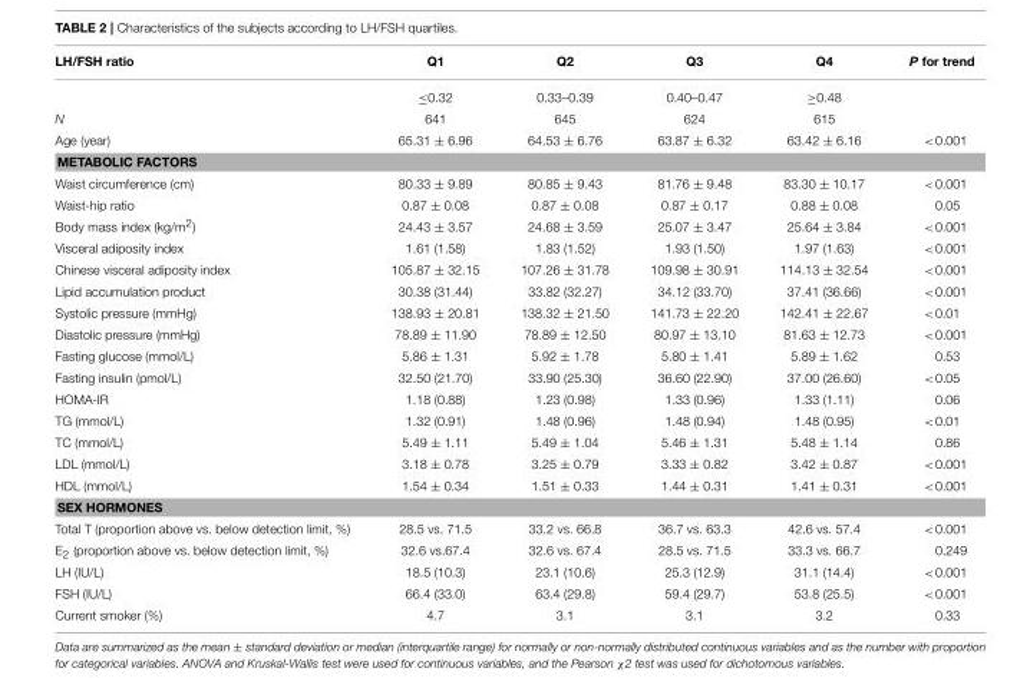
<table><thead><tr><td>LH/FSH ratio</td><td>Q1</td><td>Q2</td><td>Q3</td><td>Q4</td><td>P for trend</td></tr></thead><tbody><tr><td></td><td>≤0.32</td><td>0.33–0.39</td><td>0.40–0.47</td><td>≥0.48</td><td></td></tr><tr><td>N</td><td>641</td><td>645</td><td>624</td><td>615</td><td></td></tr><tr><td>Age (year)</td><td>65.31 ± 6.96</td><td>64.53 ± 6.76</td><td>63.87 ± 6.32</td><td>63.42 ± 6.16</td><td>&lt;0.001</td></tr><tr><td colspan="6">METABOLIC FACTORS</td></tr><tr><td>Waist circumference (cm)</td><td>80.33 ± 9.89</td><td>80.85 ± 9.43</td><td>81.76 ± 9.48</td><td>83.30 ± 10.17</td><td>&lt;0.001</td></tr><tr><td>Waist-hip ratio</td><td>0.87 ± 0.08</td><td>0.87 ± 0.08</td><td>0.87 ± 0.17</td><td>0.88 ± 0.08</td><td>0.05</td></tr><tr><td>Body mass index (kg/m<sup>2</sup>)</td><td>24.43 ± 3.57</td><td>24.68 ± 3.59</td><td>25.07 ± 3.47</td><td>25.64 ± 3.84</td><td>&lt;0.001</td></tr><tr><td>Visceral adiposity index</td><td>1.61 (1.58)</td><td>1.83 (1.52)</td><td>1.93 (1.50)</td><td>1.97 (1.63)</td><td>&lt;0.001</td></tr><tr><td>Chinese visceral adiposity index</td><td>105.87 ± 32.15</td><td>107.26 ± 31.78</td><td>109.98 ± 30.91</td><td>114.13 ± 32.54</td><td>&lt;0.001</td></tr><tr><td>Lipid accumulation product</td><td>30.38 (31.44)</td><td>33.82 (32.27)</td><td>34.12 (33.70)</td><td>37.41 (36.66)</td><td>&lt;0.001</td></tr><tr><td>Systolic pressure (mmHg)</td><td>138.93 ± 20.81</td><td>138.32 ± 21.50</td><td>141.73 ± 22.20</td><td>142.41 ± 22.67</td><td>&lt;0.01</td></tr><tr><td>Diastolic pressure (mmHg)</td><td>78.89 ± 11.90</td><td>78.89 ± 12.50</td><td>80.97 ± 13.10</td><td>81.63 ± 12.73</td><td>&lt;0.001</td></tr><tr><td>Fasting glucose (mmol/L)</td><td>5.86 ± 1.31</td><td>5.92 ± 1.78</td><td>5.80 ± 1.41</td><td>5.89 ± 1.62</td><td>0.53</td></tr><tr><td>Fasting insulin (pmol/L)</td><td>32.50 (21.70)</td><td>33.90 (25.30)</td><td>36.60 (22.90)</td><td>37.00 (26.60)</td><td>&lt;0.05</td></tr><tr><td>HOMA-IR</td><td>1.18 (0.88)</td><td>1.23 (0.98)</td><td>1.33 (0.96)</td><td>1.33 (1.11)</td><td>0.06</td></tr><tr><td>TG (mmol/L)</td><td>1.32 (0.91)</td><td>1.48 (0.96)</td><td>1.48 (0.94)</td><td>1.48 (0.95)</td><td>&lt;0.01</td></tr><tr><td>TC (mmol/L)</td><td>5.49 ± 1.11</td><td>5.49 ± 1.04</td><td>5.46 ± 1.31</td><td>5.48 ± 1.14</td><td>0.86</td></tr><tr><td>LDL (mmol/L)</td><td>3.18 ± 0.78</td><td>3.25 ± 0.79</td><td>3.33 ± 0.82</td><td>3.42 ± 0.87</td><td>&lt;0.001</td></tr><tr><td>HDL (mmol/L)</td><td>1.54 ± 0.34</td><td>1.51 ± 0.33</td><td>1.44 ± 0.31</td><td>1.41 ± 0.31</td><td>&lt;0.001</td></tr><tr><td colspan="6">SEX HORMONES</td></tr><tr><td>Total T (proportion above vs. below detection limit, %)</td><td>28.5 vs. 71.5</td><td>33.2 vs. 66.8</td><td>36.7 vs. 63.3</td><td>42.6 vs. 57.4</td><td>&lt;0.001</td></tr><tr><td>E<sub>2</sub> (proportion above vs. below detection limit, %)</td><td>32.6 vs.67.4</td><td>32.6 vs. 67.4</td><td>28.5 vs. 71.5</td><td>33.3 vs. 66.7</td><td>0.249</td></tr><tr><td>LH (IU/L)</td><td>18.5 (10.3)</td><td>23.1 (10.6)</td><td>25.3 (12.9)</td><td>31.1 (14.4)</td><td>&lt;0.001</td></tr><tr><td>FSH (IU/L)</td><td>66.4 (33.0)</td><td>63.4 (29.8)</td><td>59.4 (29.7)</td><td>53.8 (25.5)</td><td>&lt;0.001</td></tr><tr><td>Current smoker (%)</td><td>4.7</td><td>3.1</td><td>3.1</td><td>3.2</td><td>0.33</td></tr></tbody></table>